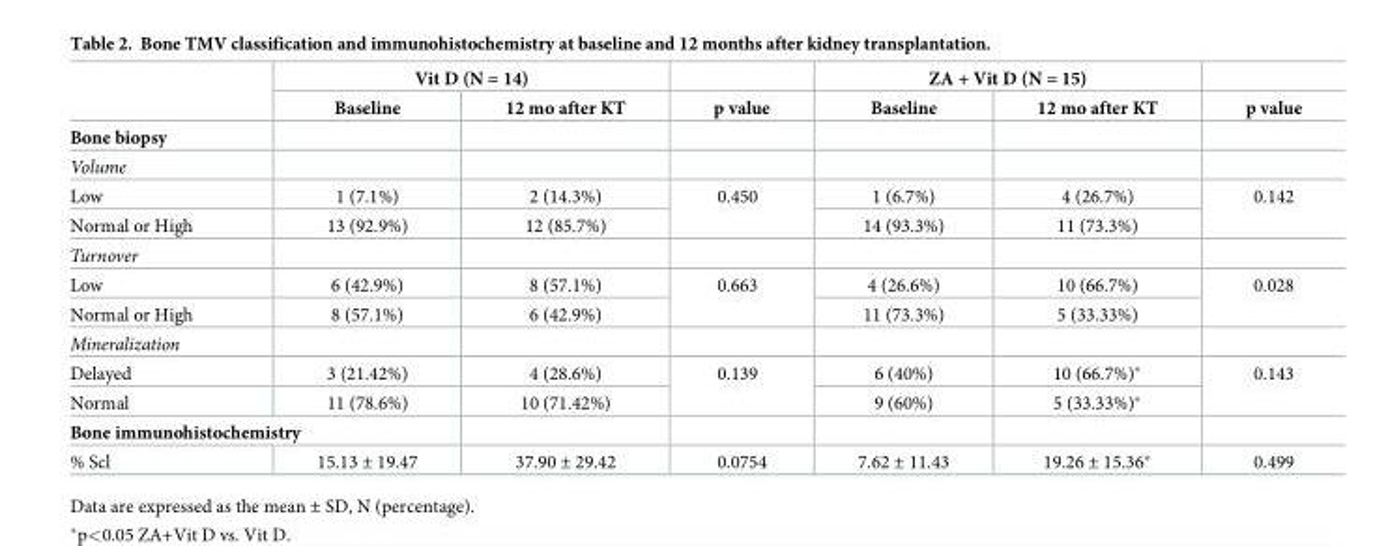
<table><thead><tr><td rowspan="2"></td><td colspan="2">Vit D (N = 14)</td><td rowspan="2">p value</td><td colspan="2">ZA + Vit D (N = 15)</td><td rowspan="2">p value</td></tr><tr><td>Baseline</td><td>12 mo after KT</td><td>Baseline</td><td>12 mo after KT</td></tr></thead><tbody><tr><td colspan="7">Bone biopsy</td></tr><tr><td colspan="7">Volume</td></tr><tr><td>Low</td><td>1 (7.1%)</td><td>2 (14.3%)</td><td rowspan="2">0.450</td><td>1 (6.7%)</td><td>4 (26.7%)</td><td rowspan="2">0.142</td></tr><tr><td>Normal or High</td><td>13 (92.9%)</td><td>12 (85.7%)</td><td>14 (93.3%)</td><td>11 (73.3%)</td></tr><tr><td colspan="7">Turnover</td></tr><tr><td>Low</td><td>6 (42.9%)</td><td>8 (57.1%)</td><td rowspan="2">0.663</td><td>4 (26.6%)</td><td>10 (66.7%)</td><td rowspan="2">0.028</td></tr><tr><td>Normal or High</td><td>8 (57.1%)</td><td>6 (42.9%)</td><td>11 (73.3%)</td><td>5 (33.33%)</td></tr><tr><td colspan="7">Mineralization</td></tr><tr><td>Delayed</td><td>3 (21.42%)</td><td>4 (28.6%)</td><td rowspan="2">0.139</td><td>6 (40%)</td><td>10 (66.7%)*</td><td rowspan="2">0.143</td></tr><tr><td>Normal</td><td>11 (78.6%)</td><td>10 (71.42%)</td><td>9 (60%)</td><td>5 (33.33%)*</td></tr><tr><td colspan="7">Bone immunohistochemistry</td></tr><tr><td>% Scl</td><td>15.13 ± 19.47</td><td>37.90 ± 29.42</td><td>0.0754</td><td>7.62 ± 11.43</td><td>19.26 ± 15.36*</td><td>0.499</td></tr></tbody></table>